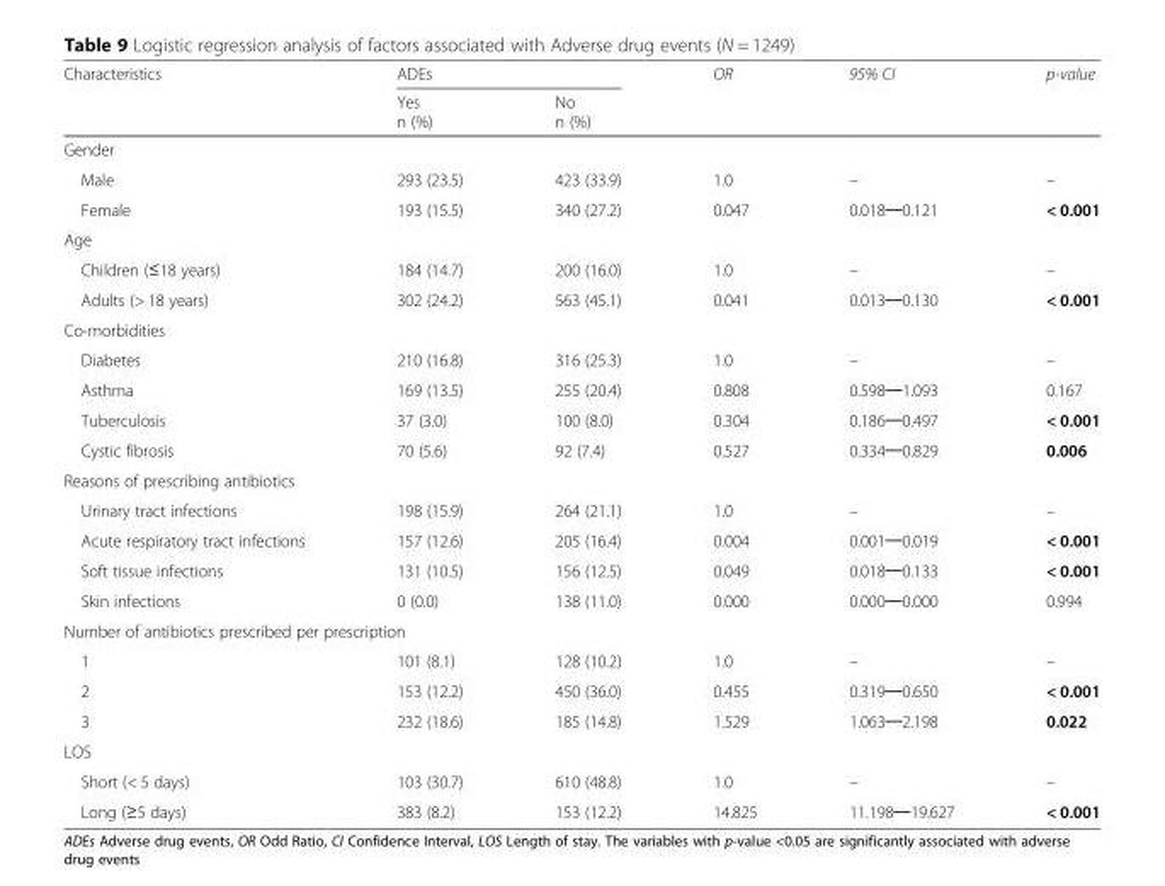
<table><thead><tr><td rowspan="2">Characteristics</td><td colspan="2">ADEs</td><td rowspan="2">OR</td><td rowspan="2">95% CI</td><td rowspan="2">p-value</td></tr><tr><td>Yes n (%)</td><td>No n (%)</td></tr></thead><tbody><tr><td colspan="6">Gender</td></tr><tr><td>Male</td><td>293 (23.5)</td><td>423 (33.9)</td><td>1.0</td><td>–</td><td>–</td></tr><tr><td>Female</td><td>193 (15.5)</td><td>340 (27.2)</td><td>0.047</td><td>0.018─0.121</td><td>&lt; 0.001</td></tr><tr><td colspan="6">Age</td></tr><tr><td>Children (≤18 years)</td><td>184 (14.7)</td><td>200 (16.0)</td><td>1.0</td><td>–</td><td>–</td></tr><tr><td>Adults (&gt; 18 years)</td><td>302 (24.2)</td><td>563 (45.1)</td><td>0.041</td><td>0.013─0.130</td><td>&lt; 0.001</td></tr><tr><td colspan="6">Co-morbidities</td></tr><tr><td>Diabetes</td><td>210 (16.8)</td><td>316 (25.3)</td><td>1.0</td><td>–</td><td>–</td></tr><tr><td>Asthma</td><td>169 (13.5)</td><td>255 (20.4)</td><td>0.808</td><td>0.598─1.093</td><td>0.167</td></tr><tr><td>Tuberculosis</td><td>37 (3.0)</td><td>100 (8.0)</td><td>0.304</td><td>0.186─0.497</td><td>&lt; 0.001</td></tr><tr><td>Cystic fibrosis</td><td>70 (5.6)</td><td>92 (7.4)</td><td>0.527</td><td>0.334─0.829</td><td>0.006</td></tr><tr><td colspan="6">Reasons of prescribing antibiotics</td></tr><tr><td>Urinary tract infections</td><td>198 (15.9)</td><td>264 (21.1)</td><td>1.0</td><td>–</td><td>–</td></tr><tr><td>Acute respiratory tract infections</td><td>157 (12.6)</td><td>205 (16.4)</td><td>0.004</td><td>0.001─0.019</td><td>&lt; 0.001</td></tr><tr><td>Soft tissue infections</td><td>131 (10.5)</td><td>156 (12.5)</td><td>0.049</td><td>0.018─0.133</td><td>&lt; 0.001</td></tr><tr><td>Skin infections</td><td>0 (0.0)</td><td>138 (11.0)</td><td>0.000</td><td>0.000─0.000</td><td>0.994</td></tr><tr><td colspan="6">Number of antibiotics prescribed per prescription</td></tr><tr><td>1</td><td>101 (8.1)</td><td>128 (10.2)</td><td>1.0</td><td>–</td><td>–</td></tr><tr><td>2</td><td>153 (12.2)</td><td>450 (36.0)</td><td>0.455</td><td>0.319─0.650</td><td>&lt; 0.001</td></tr><tr><td>3</td><td>232 (18.6)</td><td>185 (14.8)</td><td>1.529</td><td>1.063─2.198</td><td>0.022</td></tr><tr><td colspan="6">LOS</td></tr><tr><td>Short (&lt; 5 days)</td><td>103 (30.7)</td><td>610 (48.8)</td><td>1.0</td><td>–</td><td>–</td></tr><tr><td>Long (≥5 days)</td><td>383 (8.2)</td><td>153 (12.2)</td><td>14.825</td><td>11.198─19.627</td><td>&lt; 0.001</td></tr></tbody></table>